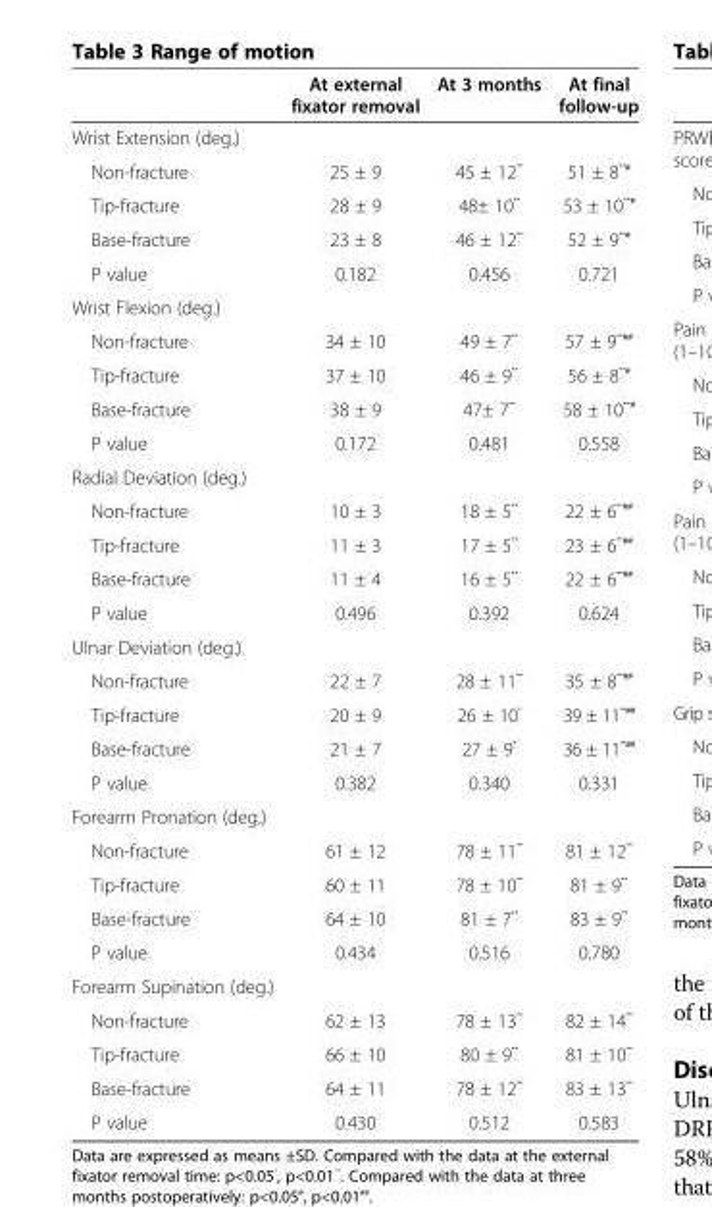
<table><thead><tr><td></td><td>At external fixator removal</td><td>At 3 months</td><td>At final follow-up</td></tr></thead><tbody><tr><td colspan="4">Wrist Extension (deg.)</td></tr><tr><td>Non-fracture</td><td>25 ± 9</td><td>45 ± 12﹡﹡</td><td>51 ± 8<sup>﹡﹡﹟</sup></td></tr><tr><td>Tip-fracture</td><td>28 ± 9</td><td>48± 10﹡﹡</td><td>53 ± 10<sup>﹡﹡﹟</sup></td></tr><tr><td>Base-fracture</td><td>23 ± 8</td><td>46 ± 12﹡﹡</td><td>52 ± 9<sup>﹡﹡﹟</sup></td></tr><tr><td>P value</td><td>0.182</td><td>0.456</td><td>0.721</td></tr><tr><td colspan="4">Wrist Flexion (deg.)</td></tr><tr><td>Non-fracture</td><td>34 ± 10</td><td>49 ± 7﹡﹡</td><td>57 ± 9<sup>﹡﹡﹟﹟</sup></td></tr><tr><td>Tip-fracture</td><td>37 ± 10</td><td>46 ± 9﹡﹡</td><td>56 ± 8<sup>﹡﹡﹟</sup></td></tr><tr><td>Base-fracture</td><td>38 ± 9</td><td>47± 7﹡﹡</td><td>58 ± 10<sup>﹡﹡﹟</sup></td></tr><tr><td>P value</td><td>0.172</td><td>0.481</td><td>0.558</td></tr><tr><td colspan="4">Radial Deviation (deg.)</td></tr><tr><td>Non-fracture</td><td>10 ± 3</td><td>18 ± 5﹡﹡</td><td>22 ± 6<sup>﹡﹡﹟﹟</sup></td></tr><tr><td>Tip-fracture</td><td>11 ± 3</td><td>17 ± 5﹡﹡</td><td>23 ± 6<sup>﹡﹡﹟﹟</sup></td></tr><tr><td>Base-fracture</td><td>11 ± 4</td><td>16 ± 5﹡﹡</td><td>22 ± 6<sup>﹡﹡﹟﹟</sup></td></tr><tr><td>P value</td><td>0.496</td><td>0.392</td><td>0.624</td></tr><tr><td colspan="4">Ulnar Deviation (deg.)</td></tr><tr><td>Non-fracture</td><td>22 ± 7</td><td>28 ± 11﹡﹡</td><td>35 ± 8<sup>﹡﹡﹟﹟</sup></td></tr><tr><td>Tip-fracture</td><td>20 ± 9</td><td>26 ± 10﹡</td><td>39 ± 11<sup>﹡﹡﹟﹟</sup></td></tr><tr><td>Base-fracture</td><td>21 ± 7</td><td>27 ± 9﹡</td><td>36 ± 11<sup>﹡﹡﹟﹟</sup></td></tr><tr><td>P value</td><td>0.382</td><td>0.340</td><td>0.331</td></tr><tr><td colspan="4">Forearm Pronation (deg.)</td></tr><tr><td>Non-fracture</td><td>61 ± 12</td><td>78 ± 11﹡﹡</td><td>81 ± 12﹡﹡</td></tr><tr><td>Tip-fracture</td><td>60 ± 11</td><td>78 ± 10﹡﹡</td><td>81 ± 9﹡﹡</td></tr><tr><td>Base-fracture</td><td>64 ± 10</td><td>81 ± 7﹡﹡</td><td>83 ± 9﹡﹡</td></tr><tr><td>P value</td><td>0.434</td><td>0.516</td><td>0.780</td></tr><tr><td colspan="4">Forearm Supination (deg.)</td></tr><tr><td>Non-fracture</td><td>62 ± 13</td><td>78 ± 13﹡﹡</td><td>82 ± 14﹡﹡</td></tr><tr><td>Tip-fracture</td><td>66 ± 10</td><td>80 ± 9﹡﹡</td><td>81 ± 10﹡﹡</td></tr><tr><td>Base-fracture</td><td>64 ± 11</td><td>78 ± 12﹡﹡</td><td>83 ± 13﹡﹡</td></tr><tr><td>P value</td><td>0.430</td><td>0.512</td><td>0.583</td></tr></tbody></table>